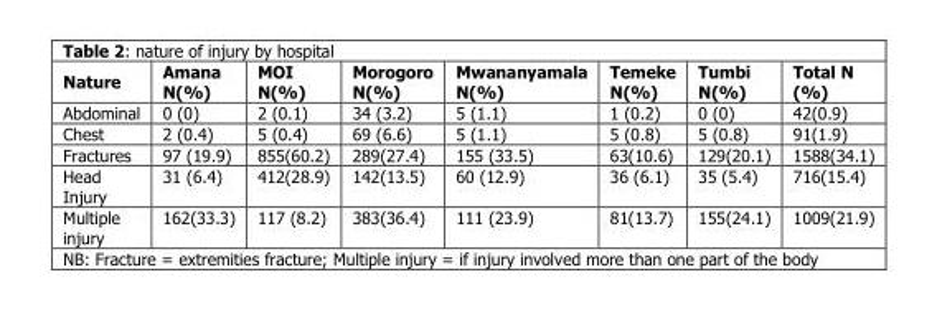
<table><thead><tr><td>Nature</td><td>Amana N(%)</td><td>MOI N(%)</td><td>Morogoro N(%)</td><td>Mwananyamala N(%)</td><td>Temeke N(%)</td><td>Tumbi N(%)</td><td>Total N (%)</td></tr></thead><tbody><tr><td>Abdominal</td><td>0 (0)</td><td>2 (0.1)</td><td>34 (3.2)</td><td>5 (1.1)</td><td>1 (0.2)</td><td>0 (0)</td><td>42(0.9)</td></tr><tr><td>Chest</td><td>2 (0.4)</td><td>5 (0.4)</td><td>69 (6.6)</td><td>5 (1.1)</td><td>5 (0.8)</td><td>5 (0.8)</td><td>91(1.9)</td></tr><tr><td>Fractures</td><td>97 (19.9)</td><td>855(60.2)</td><td>289(27.4)</td><td>155 (33.5)</td><td>63(10.6)</td><td>129(20.1)</td><td>1588(34.1)</td></tr><tr><td>Head Injury</td><td>31 (6.4)</td><td>412(28.9)</td><td>142(13.5)</td><td>60 (12.9)</td><td>36 (6.1)</td><td>35 (5.4)</td><td>716(15.4)</td></tr><tr><td>Multiple injury</td><td>162(33.3)</td><td>117 (8.2)</td><td>383(36.4)</td><td>111 (23.9)</td><td>81(13.7)</td><td>155(24.1)</td><td>1009(21.9)</td></tr></tbody></table>